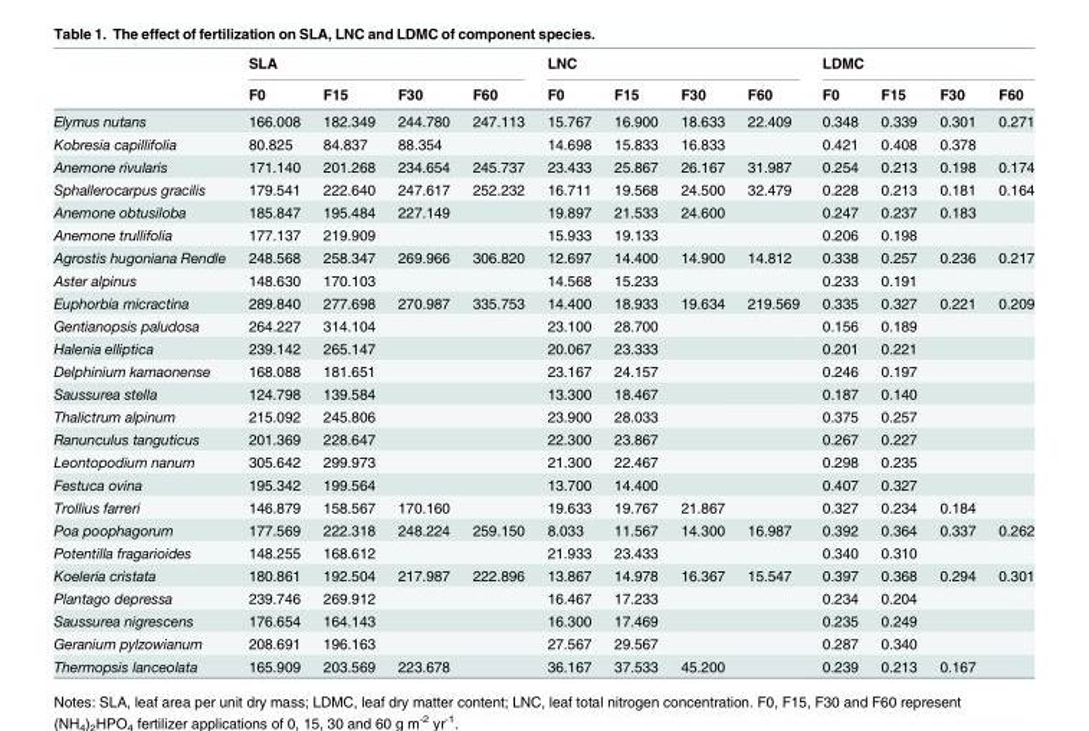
<table><thead><tr><td rowspan="2"></td><td colspan="4">SLA</td><td colspan="4">LNC</td><td colspan="4">LDMC</td></tr><tr><td>F0</td><td>F15</td><td>F30</td><td>F60</td><td>F0</td><td>F15</td><td>F30</td><td>F60</td><td>F0</td><td>F15</td><td>F30</td><td>F60</td></tr></thead><tbody><tr><td>Elymus nutans</td><td>166.008</td><td>182.349</td><td>244.780</td><td>247.113</td><td>15.767</td><td>16.900</td><td>18.633</td><td>22.409</td><td>0.348</td><td>0.339</td><td>0.301</td><td>0.271</td></tr><tr><td>Kobresia capillifolia</td><td>80.825</td><td>84.837</td><td>88.354</td><td></td><td>14.698</td><td>15.833</td><td>16.833</td><td></td><td>0.421</td><td>0.408</td><td>0.378</td><td></td></tr><tr><td>Anemone rivularis</td><td>171.140</td><td>201.268</td><td>234.654</td><td>245.737</td><td>23.433</td><td>25.867</td><td>26.167</td><td>31.987</td><td>0.254</td><td>0.213</td><td>0.198</td><td>0.174</td></tr><tr><td>Sphallerocarpus gracilis</td><td>179.541</td><td>222.640</td><td>247.617</td><td>252.232</td><td>16.711</td><td>19.568</td><td>24.500</td><td>32.479</td><td>0.228</td><td>0.213</td><td>0.181</td><td>0.164</td></tr><tr><td>Anemone obtusiloba</td><td>185.847</td><td>195.484</td><td>227.149</td><td></td><td>19.897</td><td>21.533</td><td>24.600</td><td></td><td>0.247</td><td>0.237</td><td>0.183</td><td></td></tr><tr><td>Anemone trullifolia</td><td>177.137</td><td>219.909</td><td></td><td></td><td>15.933</td><td>19.133</td><td></td><td></td><td>0.206</td><td>0.198</td><td></td><td></td></tr><tr><td>Agrostis hugoniana Rendle</td><td>248.568</td><td>258.347</td><td>269.966</td><td>306.820</td><td>12.697</td><td>14.400</td><td>14.900</td><td>14.812</td><td>0.338</td><td>0.257</td><td>0.236</td><td>0.217</td></tr><tr><td>Aster alpinus</td><td>148.630</td><td>170.103</td><td></td><td></td><td>14.568</td><td>15.233</td><td></td><td></td><td>0.233</td><td>0.191</td><td></td><td></td></tr><tr><td>Euphorbia micractina</td><td>289.840</td><td>277.698</td><td>270.987</td><td>335.753</td><td>14.400</td><td>18.933</td><td>19.634</td><td>219.569</td><td>0.335</td><td>0.327</td><td>0.221</td><td>0.209</td></tr><tr><td>Gentianopsis paludosa</td><td>264.227</td><td>314.104</td><td></td><td></td><td>23.100</td><td>28.700</td><td></td><td></td><td>0.156</td><td>0.189</td><td></td><td></td></tr><tr><td>Halenia elliptica</td><td>239.142</td><td>265.147</td><td></td><td></td><td>20.067</td><td>23.333</td><td></td><td></td><td>0.201</td><td>0.221</td><td></td><td></td></tr><tr><td>Delphinium kamaonense</td><td>168.088</td><td>181.651</td><td></td><td></td><td>23.167</td><td>24.157</td><td></td><td></td><td>0.246</td><td>0.197</td><td></td><td></td></tr><tr><td>Saussurea stella</td><td>124.798</td><td>139.584</td><td></td><td></td><td>13.300</td><td>18.467</td><td></td><td></td><td>0.187</td><td>0.140</td><td></td><td></td></tr><tr><td>Thalictrum alpinum</td><td>215.092</td><td>245.806</td><td></td><td></td><td>23.900</td><td>28.033</td><td></td><td></td><td>0.375</td><td>0.257</td><td></td><td></td></tr><tr><td>Ranunculus tanguticus</td><td>201.369</td><td>228.647</td><td></td><td></td><td>22.300</td><td>23.867</td><td></td><td></td><td>0.267</td><td>0.227</td><td></td><td></td></tr><tr><td>Leontopodium nanum</td><td>305.642</td><td>299.973</td><td></td><td></td><td>21.300</td><td>22.467</td><td></td><td></td><td>0.298</td><td>0.235</td><td></td><td></td></tr><tr><td>Festuca ovina</td><td>195.342</td><td>199.564</td><td></td><td></td><td>13.700</td><td>14.400</td><td></td><td></td><td>0.407</td><td>0.327</td><td></td><td></td></tr><tr><td>Trollius farreri</td><td>146.879</td><td>158.567</td><td>170.160</td><td></td><td>19.633</td><td>19.767</td><td>21.867</td><td></td><td>0.327</td><td>0.234</td><td>0.184</td><td></td></tr><tr><td>Poa poophagorum</td><td>177.569</td><td>222.318</td><td>248.224</td><td>259.150</td><td>8.033</td><td>11.567</td><td>14.300</td><td>16.987</td><td>0.392</td><td>0.364</td><td>0.337</td><td>0.262</td></tr><tr><td>Potentilla fragarioides</td><td>148.255</td><td>168.612</td><td></td><td></td><td>21.933</td><td>23.433</td><td></td><td></td><td>0.340</td><td>0.310</td><td></td><td></td></tr><tr><td>Koeleria cristata</td><td>180.861</td><td>192.504</td><td>217.987</td><td>222.896</td><td>13.867</td><td>14.978</td><td>16.367</td><td>15.547</td><td>0.397</td><td>0.368</td><td>0.294</td><td>0.301</td></tr><tr><td>Plantago depressa</td><td>239.746</td><td>269.912</td><td></td><td></td><td>16.467</td><td>17.233</td><td></td><td></td><td>0.234</td><td>0.204</td><td></td><td></td></tr><tr><td>Saussurea nigrescens</td><td>176.654</td><td>164.143</td><td></td><td></td><td>16.300</td><td>17.469</td><td></td><td></td><td>0.235</td><td>0.249</td><td></td><td></td></tr><tr><td>Geranium pylzowianum</td><td>208.691</td><td>196.163</td><td></td><td></td><td>27.567</td><td>29.567</td><td></td><td></td><td>0.287</td><td>0.340</td><td></td><td></td></tr><tr><td>Thermopsis lanceolata</td><td>165.909</td><td>203.569</td><td>223.678</td><td></td><td>36.167</td><td>37.533</td><td>45.200</td><td></td><td>0.239</td><td>0.213</td><td>0.167</td><td></td></tr></tbody></table>